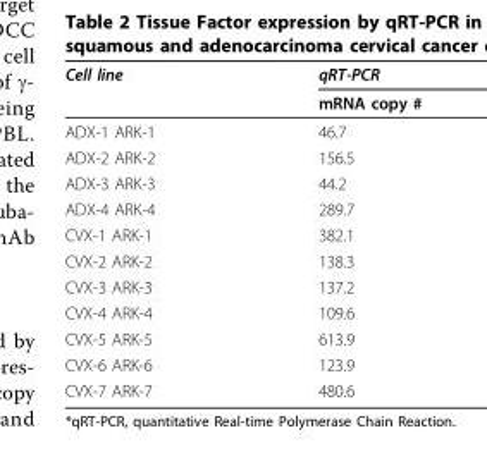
<table><thead><tr><td rowspan="2">Cell line</td><td rowspan="2">qRT-PCR mRNA copy #</td></tr><tr></tr></thead><tbody><tr><td>ADX-1 ARK-1</td><td>46.7</td></tr><tr><td>ADX-2 ARK-2</td><td>156.5</td></tr><tr><td>ADX-3 ARK-3</td><td>44.2</td></tr><tr><td>ADX-4 ARK-4</td><td>289.7</td></tr><tr><td>CVX-1 ARK-1</td><td>382.1</td></tr><tr><td>CVX-2 ARK-2</td><td>138.3</td></tr><tr><td>CVX-3 ARK-3</td><td>137.2</td></tr><tr><td>CVX-4 ARK-4</td><td>109.6</td></tr><tr><td>CVX-5 ARK-5</td><td>613.9</td></tr><tr><td>CVX-6 ARK-6</td><td>123.9</td></tr><tr><td>CVX-7 ARK-7</td><td>480.6</td></tr></tbody></table>